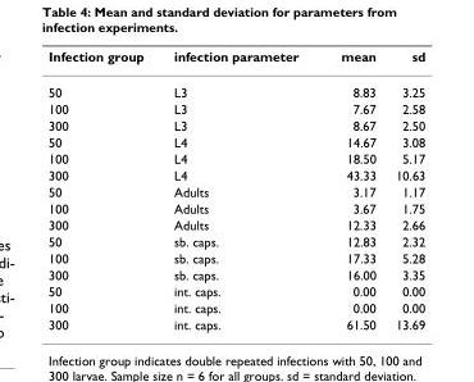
<table><thead><tr><td>Infection group</td><td>infection parameter</td><td>mean</td><td>sd</td></tr></thead><tbody><tr><td>50</td><td>L3</td><td>8.83</td><td>3.25</td></tr><tr><td>100</td><td>L3</td><td>7.67</td><td>2.58</td></tr><tr><td>300</td><td>L3</td><td>8.67</td><td>2.50</td></tr><tr><td>50</td><td>L4</td><td>14.67</td><td>3.08</td></tr><tr><td>100</td><td>L4</td><td>18.50</td><td>5.17</td></tr><tr><td>300</td><td>L4</td><td>43.33</td><td>10.63</td></tr><tr><td>50</td><td>Adults</td><td>3.17</td><td>1.17</td></tr><tr><td>100</td><td>Adults</td><td>3.67</td><td>1.75</td></tr><tr><td>300</td><td>Adults</td><td>12.33</td><td>2.66</td></tr><tr><td>50</td><td>sb. caps.</td><td>12.83</td><td>2.32</td></tr><tr><td>100</td><td>sb. caps.</td><td>17.33</td><td>5.28</td></tr><tr><td>300</td><td>sb. caps.</td><td>16.00</td><td>3.35</td></tr><tr><td>50</td><td>int. caps.</td><td>0.00</td><td>0.00</td></tr><tr><td>100</td><td>int. caps.</td><td>0.00</td><td>0.00</td></tr><tr><td>300</td><td>int. caps.</td><td>61.50</td><td>13.69</td></tr></tbody></table>